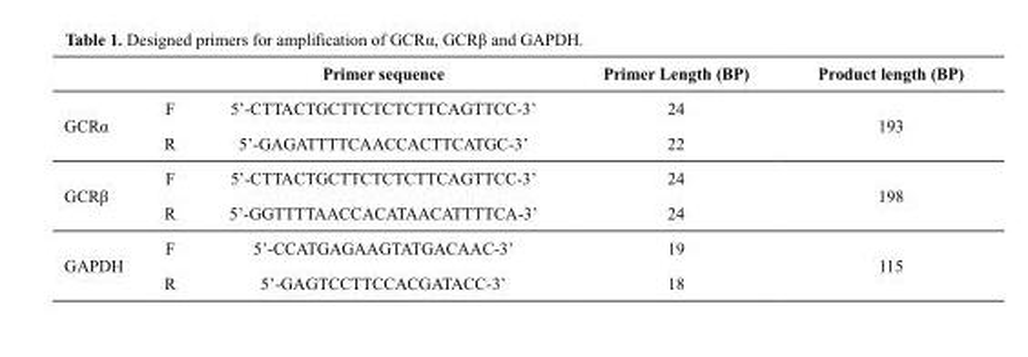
<table><thead><tr><td></td><td></td><td>Primer sequence</td><td>Primer Length (BP)</td><td>Product length (BP)</td></tr></thead><tbody><tr><td rowspan="2">GCRα</td><td>F</td><td>5’-CTTACTGCTTCTCTCTTCAGTTCC-3’</td><td>24</td><td rowspan="2">193</td></tr><tr><td>R</td><td>5’-GAGATTTTCAACCACTTCATGC-3’</td><td>22</td></tr><tr><td rowspan="2">GCRβ</td><td>F</td><td>5’-CTTACTGCTTCTCTCTTCAGTTCC-3’</td><td>24</td><td rowspan="2">198</td></tr><tr><td>R</td><td>5’-GGTTTTAACCACATAACATTTTCA-3’</td><td>24</td></tr><tr><td rowspan="2">GAPDH</td><td>F</td><td>5’-CCATGAGAAGTATGACAAC-3’</td><td>19</td><td rowspan="2">115</td></tr><tr><td>R</td><td>5’-GAGTCCTTCCACGATACC-3’</td><td>18</td></tr></tbody></table>